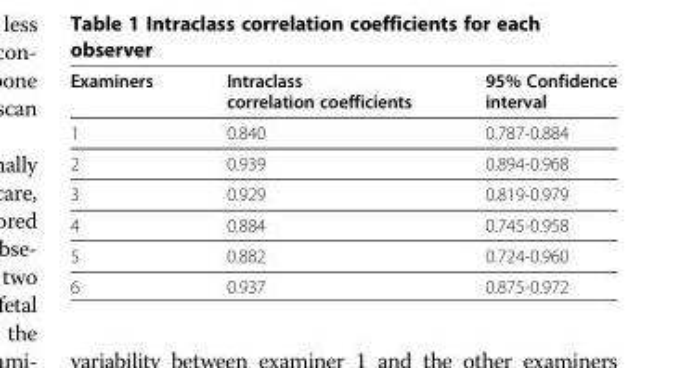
<table><thead><tr><td>Examiners</td><td>Intraclass correlation coefficients</td><td>95% Confidence interval</td></tr></thead><tbody><tr><td>1</td><td>0.840</td><td>0.787-0.884</td></tr><tr><td>2</td><td>0.939</td><td>0.894-0.968</td></tr><tr><td>3</td><td>0.929</td><td>0.819-0.979</td></tr><tr><td>4</td><td>0.884</td><td>0.745-0.958</td></tr><tr><td>5</td><td>0.882</td><td>0.724-0.960</td></tr><tr><td>6</td><td>0.937</td><td>0.875-0.972</td></tr></tbody></table>